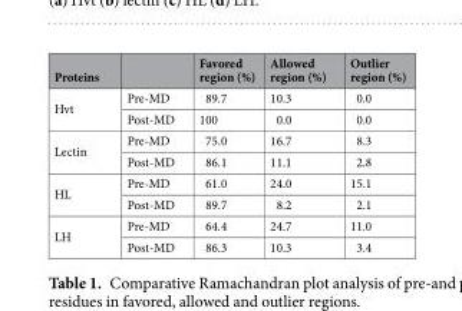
<table><thead><tr><td>Proteins</td><td></td><td>Favored region (%)</td><td>Allowed region (%)</td><td>Outlier region (%)</td></tr></thead><tbody><tr><td rowspan="2">Hvt</td><td>Pre-MD</td><td>89.7</td><td>10.3</td><td>0.0</td></tr><tr><td>Post-MD</td><td>100</td><td>0.0</td><td>0.0</td></tr><tr><td rowspan="2">Lectin</td><td>Pre-MD</td><td>75.0</td><td>16.7</td><td>8.3</td></tr><tr><td>Post-MD</td><td>86.1</td><td>11.1</td><td>2.8</td></tr><tr><td rowspan="2">HL</td><td>Pre-MD</td><td>61.0</td><td>24.0</td><td>15.1</td></tr><tr><td>Post-MD</td><td>89.7</td><td>8.2</td><td>2.1</td></tr><tr><td rowspan="2">LH</td><td>Pre-MD</td><td>64.4</td><td>24.7</td><td>11.0</td></tr><tr><td>Post-MD</td><td>86.3</td><td>10.3</td><td>3.4</td></tr></tbody></table>